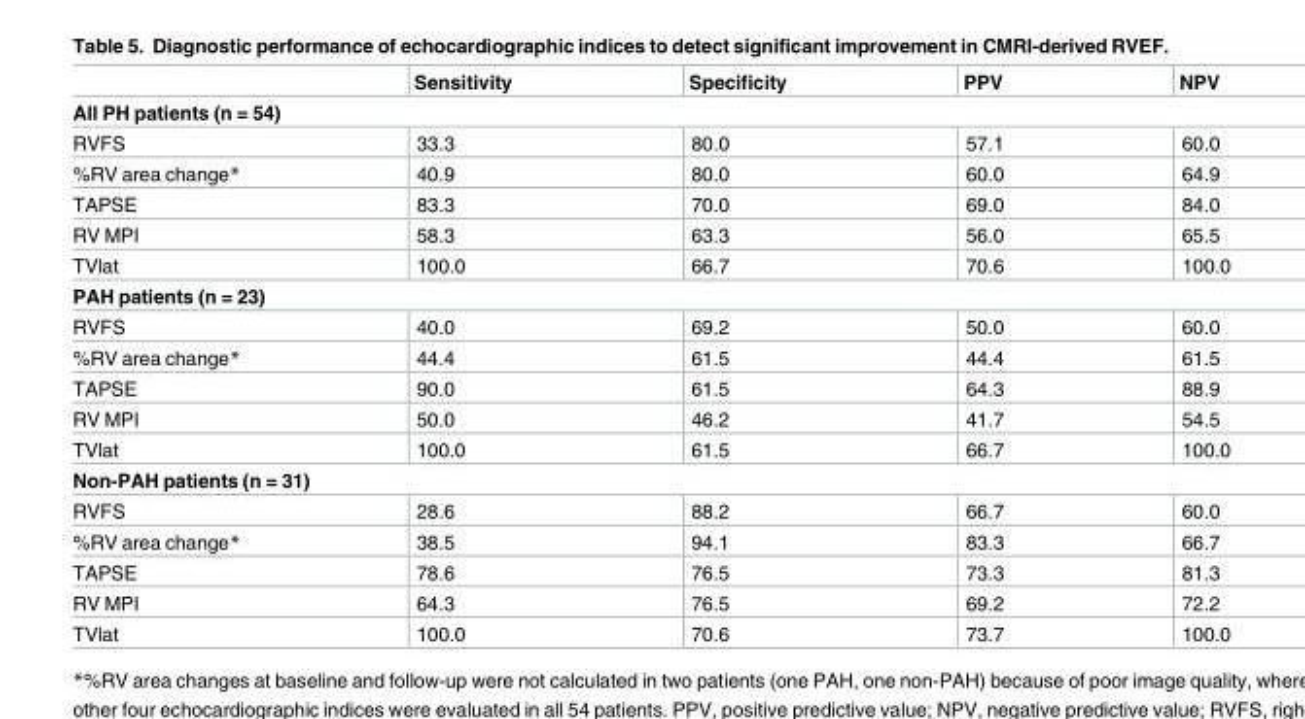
<table><thead><tr><td></td><td>Sensitivity</td><td>Specificity</td><td>PPV</td><td>NPV</td></tr></thead><tbody><tr><td colspan="5">All PH patients (n = 54)</td></tr><tr><td>RVFS</td><td>33.3</td><td>80.0</td><td>57.1</td><td>60.0</td></tr><tr><td>%RV area change*</td><td>40.9</td><td>80.0</td><td>60.0</td><td>64.9</td></tr><tr><td>TAPSE</td><td>83.3</td><td>70.0</td><td>69.0</td><td>84.0</td></tr><tr><td>RV MPI</td><td>58.3</td><td>63.3</td><td>56.0</td><td>65.5</td></tr><tr><td>TVlat</td><td>100.0</td><td>66.7</td><td>70.6</td><td>100.0</td></tr><tr><td colspan="5">PAH patients (n = 23)</td></tr><tr><td>RVFS</td><td>40.0</td><td>69.2</td><td>50.0</td><td>60.0</td></tr><tr><td>%RV area change*</td><td>44.4</td><td>61.5</td><td>44.4</td><td>61.5</td></tr><tr><td>TAPSE</td><td>90.0</td><td>61.5</td><td>64.3</td><td>88.9</td></tr><tr><td>RV MPI</td><td>50.0</td><td>46.2</td><td>41.7</td><td>54.5</td></tr><tr><td>TVlat</td><td>100.0</td><td>61.5</td><td>66.7</td><td>100.0</td></tr><tr><td colspan="5">Non-PAH patients (n = 31)</td></tr><tr><td>RVFS</td><td>28.6</td><td>88.2</td><td>66.7</td><td>60.0</td></tr><tr><td>%RV area change*</td><td>38.5</td><td>94.1</td><td>83.3</td><td>66.7</td></tr><tr><td>TAPSE</td><td>78.6</td><td>76.5</td><td>73.3</td><td>81.3</td></tr><tr><td>RV MPI</td><td>64.3</td><td>76.5</td><td>69.2</td><td>72.2</td></tr><tr><td>TVlat</td><td>100.0</td><td>70.6</td><td>73.7</td><td>100.0</td></tr></tbody></table>